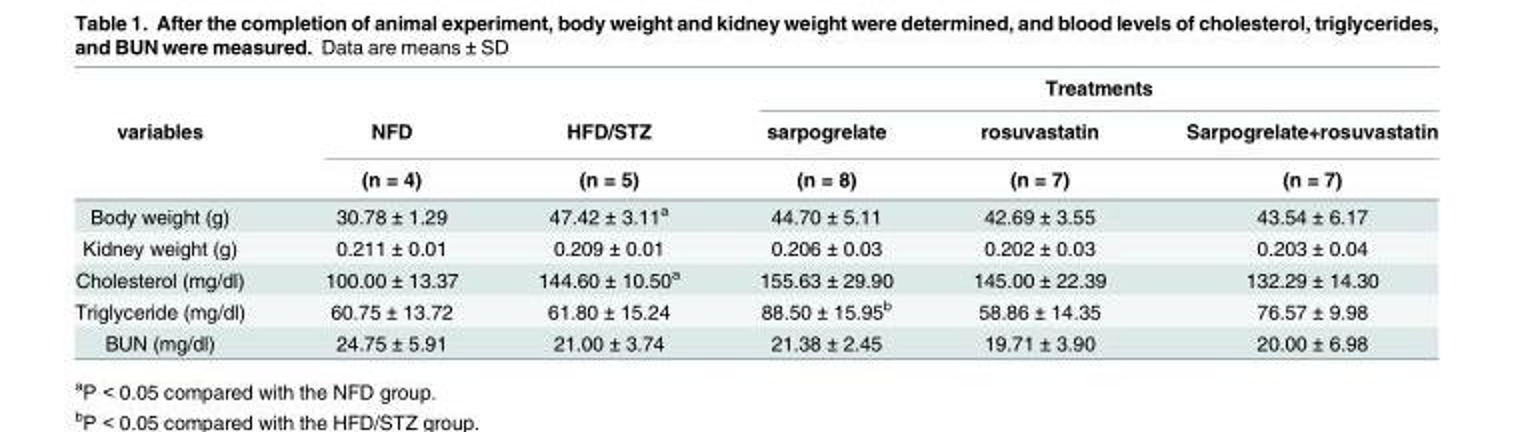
<table><thead><tr><td rowspan="3">variables</td><td rowspan="3">NFD (n = 4)</td><td rowspan="3">HFD/STZ (n = 5)</td><td colspan="3">Treatments</td></tr><tr><td rowspan="2">sarpogrelate (n = 8)</td><td rowspan="2">rosuvastatin (n = 7)</td><td rowspan="2">Sarpogrelate+rosuvastatin (n = 7)</td></tr><tr></tr></thead><tbody><tr><td>Body weight (g)</td><td>30.78 ± 1.29</td><td>47.42 ± 3.11<sup>a</sup></td><td>44.70 ± 5.11</td><td>42.69 ± 3.55</td><td>43.54 ± 6.17</td></tr><tr><td>Kidney weight (g)</td><td>0.211 ± 0.01</td><td>0.209 ± 0.01</td><td>0.206 ± 0.03</td><td>0.202 ± 0.03</td><td>0.203 ± 0.04</td></tr><tr><td>Cholesterol (mg/dl)</td><td>100.00 ± 13.37</td><td>144.60 ± 10.50<sup>a</sup></td><td>155.63 ± 29.90</td><td>145.00 ± 22.39</td><td>132.29 ± 14.30</td></tr><tr><td>Triglyceride (mg/dl)</td><td>60.75 ± 13.72</td><td>61.80 ± 15.24</td><td>88.50 ± 15.95<sup>b</sup></td><td>58.86 ± 14.35</td><td>76.57 ± 9.98</td></tr><tr><td>BUN (mg/dl)</td><td>24.75 ± 5.91</td><td>21.00 ± 3.74</td><td>21.38 ± 2.45</td><td>19.71 ± 3.90</td><td>20.00 ± 6.98</td></tr></tbody></table>